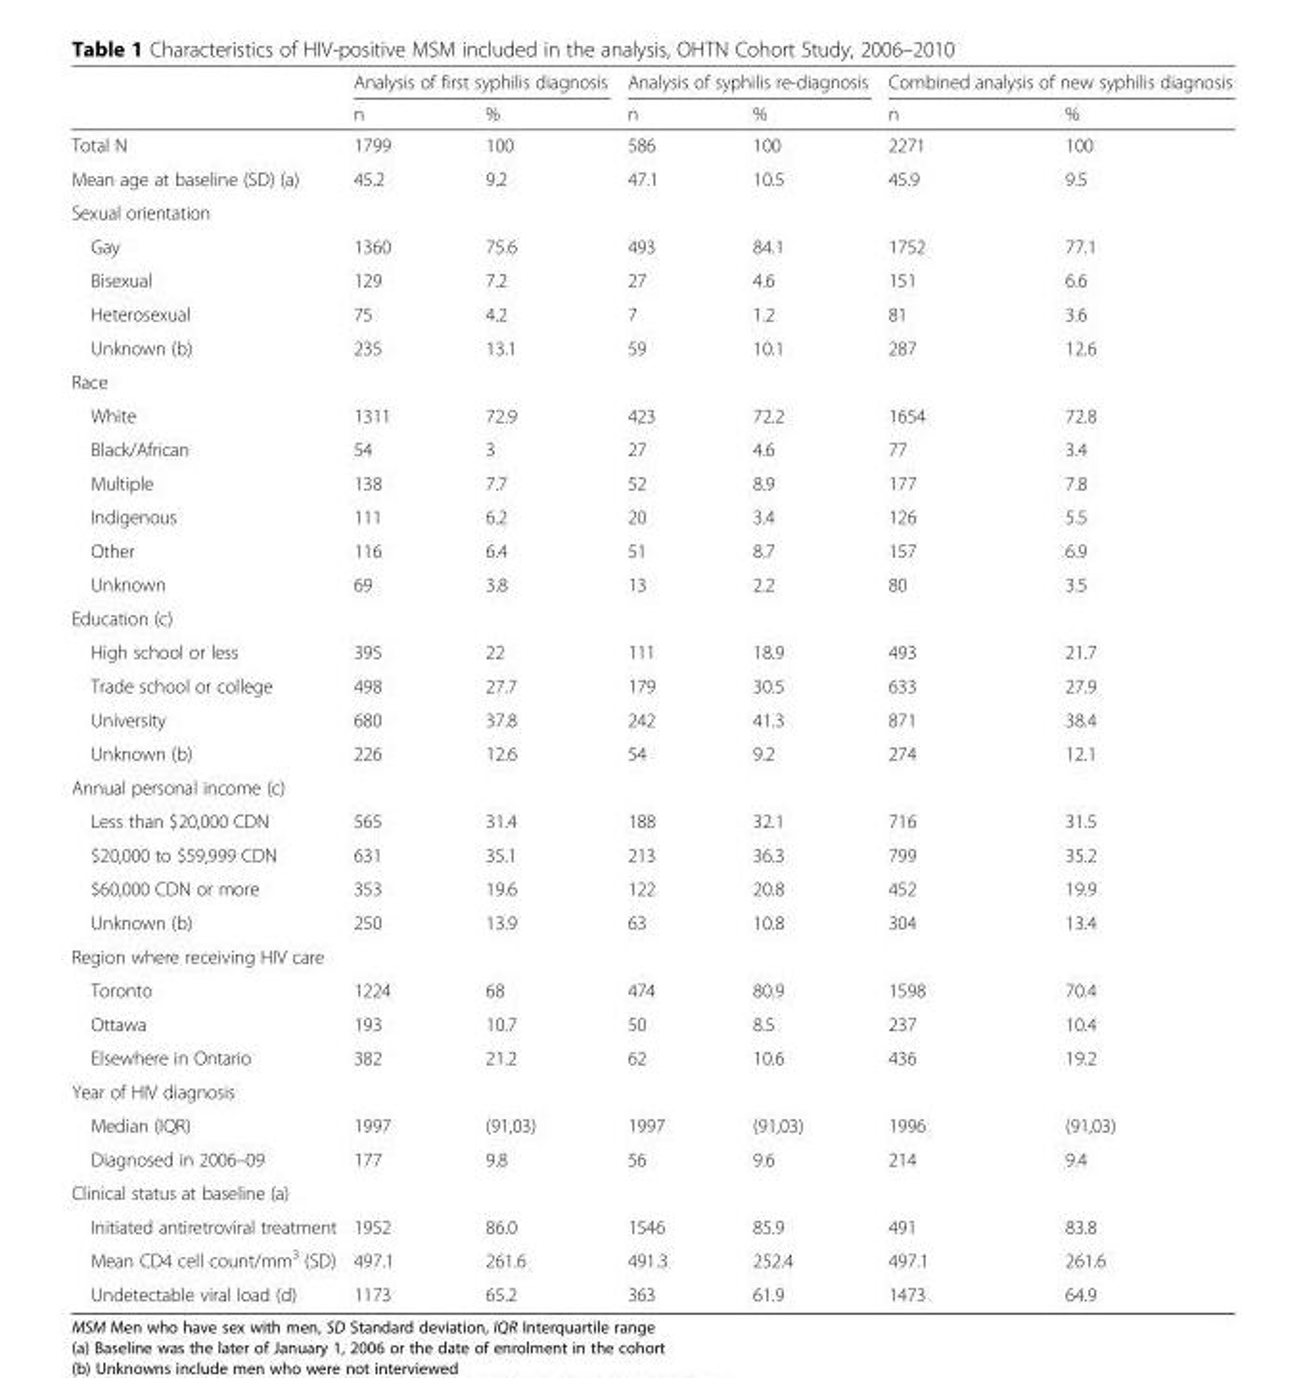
<table><thead><tr><td rowspan="2"></td><td colspan="2">Analysis of first syphilis diagnosis</td><td colspan="2">Analysis of syphilis re-diagnosis</td><td colspan="2">Combined analysis of new syphilis diagnosis</td></tr><tr><td>n</td><td>%</td><td>n</td><td>%</td><td>n</td><td>%</td></tr></thead><tbody><tr><td>Total N</td><td>1799</td><td>100</td><td>586</td><td>100</td><td>2271</td><td>100</td></tr><tr><td>Mean age at baseline (SD) (a)</td><td>45.2</td><td>9.2</td><td>47.1</td><td>10.5</td><td>45.9</td><td>9.5</td></tr><tr><td colspan="7">Sexual orientation</td></tr><tr><td>Gay</td><td>1360</td><td>75.6</td><td>493</td><td>84.1</td><td>1752</td><td>77.1</td></tr><tr><td>Bisexual</td><td>129</td><td>7.2</td><td>27</td><td>4.6</td><td>151</td><td>6.6</td></tr><tr><td>Heterosexual</td><td>75</td><td>4.2</td><td>7</td><td>1.2</td><td>81</td><td>3.6</td></tr><tr><td>Unknown (b)</td><td>235</td><td>13.1</td><td>59</td><td>10.1</td><td>287</td><td>12.6</td></tr><tr><td colspan="7">Race</td></tr><tr><td>White</td><td>1311</td><td>72.9</td><td>423</td><td>72.2</td><td>1654</td><td>72.8</td></tr><tr><td>Black/African</td><td>54</td><td>3</td><td>27</td><td>4.6</td><td>77</td><td>3.4</td></tr><tr><td>Multiple</td><td>138</td><td>7.7</td><td>52</td><td>8.9</td><td>177</td><td>7.8</td></tr><tr><td>Indigenous</td><td>111</td><td>6.2</td><td>20</td><td>3.4</td><td>126</td><td>5.5</td></tr><tr><td>Other</td><td>116</td><td>6.4</td><td>51</td><td>8.7</td><td>157</td><td>6.9</td></tr><tr><td>Unknown</td><td>69</td><td>3.8</td><td>13</td><td>2.2</td><td>80</td><td>3.5</td></tr><tr><td colspan="7">Education (c)</td></tr><tr><td>High school or less</td><td>395</td><td>22</td><td>111</td><td>18.9</td><td>493</td><td>21.7</td></tr><tr><td>Trade school or college</td><td>498</td><td>27.7</td><td>179</td><td>30.5</td><td>633</td><td>27.9</td></tr><tr><td>University</td><td>680</td><td>37.8</td><td>242</td><td>41.3</td><td>871</td><td>38.4</td></tr><tr><td>Unknown (b)</td><td>226</td><td>12.6</td><td>54</td><td>9.2</td><td>274</td><td>12.1</td></tr><tr><td colspan="7">Annual personal income (c)</td></tr><tr><td>Less than $20,000 CDN</td><td>565</td><td>31.4</td><td>188</td><td>32.1</td><td>716</td><td>31.5</td></tr><tr><td>$20,000 to $59,999 CDN</td><td>631</td><td>35.1</td><td>213</td><td>36.3</td><td>799</td><td>35.2</td></tr><tr><td>$60,000 CDN or more</td><td>353</td><td>19.6</td><td>122</td><td>20.8</td><td>452</td><td>19.9</td></tr><tr><td>Unknown (b)</td><td>250</td><td>13.9</td><td>63</td><td>10.8</td><td>304</td><td>13.4</td></tr><tr><td colspan="7">Region where receiving HIV care</td></tr><tr><td>Toronto</td><td>1224</td><td>68</td><td>474</td><td>80.9</td><td>1598</td><td>70.4</td></tr><tr><td>Ottawa</td><td>193</td><td>10.7</td><td>50</td><td>8.5</td><td>237</td><td>10.4</td></tr><tr><td>Elsewhere in Ontario</td><td>382</td><td>21.2</td><td>62</td><td>10.6</td><td>436</td><td>19.2</td></tr><tr><td colspan="7">Year of HIV diagnosis</td></tr><tr><td>Median (IQR)</td><td>1997</td><td>(91,03)</td><td>1997</td><td>(91,03)</td><td>1996</td><td>(91,03)</td></tr><tr><td>Diagnosed in 2006–09</td><td>177</td><td>9.8</td><td>56</td><td>9.6</td><td>214</td><td>9.4</td></tr><tr><td colspan="7">Clinical status at baseline (a)</td></tr><tr><td>Initiated antiretroviral treatment</td><td>1952</td><td>86.0</td><td>1546</td><td>85.9</td><td>491</td><td>83.8</td></tr><tr><td>Mean CD4 cell count/mm<sup>3</sup> (SD)</td><td>497.1</td><td>261.6</td><td>491.3</td><td>252.4</td><td>497.1</td><td>261.6</td></tr><tr><td>Undetectable viral load (d)</td><td>1173</td><td>65.2</td><td>363</td><td>61.9</td><td>1473</td><td>64.9</td></tr></tbody></table>